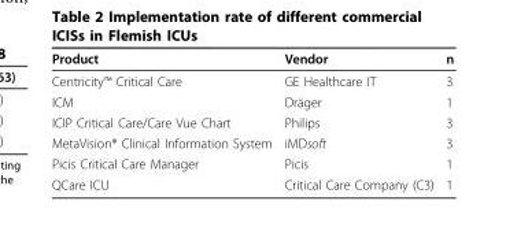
<table><thead><tr><td>Product</td><td>Vendor</td><td>n</td></tr></thead><tbody><tr><td>Centricity™ Critical Care</td><td>GE Healthcare IT</td><td>3</td></tr><tr><td>ICM</td><td>Dräger</td><td>1</td></tr><tr><td>ICIP Critical Care/Care Vue Chart</td><td>Philips</td><td>3</td></tr><tr><td>MetaVision<sup>®</sup> Clinical Information System</td><td>iMDsoft</td><td>3</td></tr><tr><td>Picis Critical Care Manager</td><td>Picis</td><td>1</td></tr><tr><td>QCare ICU</td><td>Critical Care Company (C3)</td><td>1</td></tr></tbody></table>